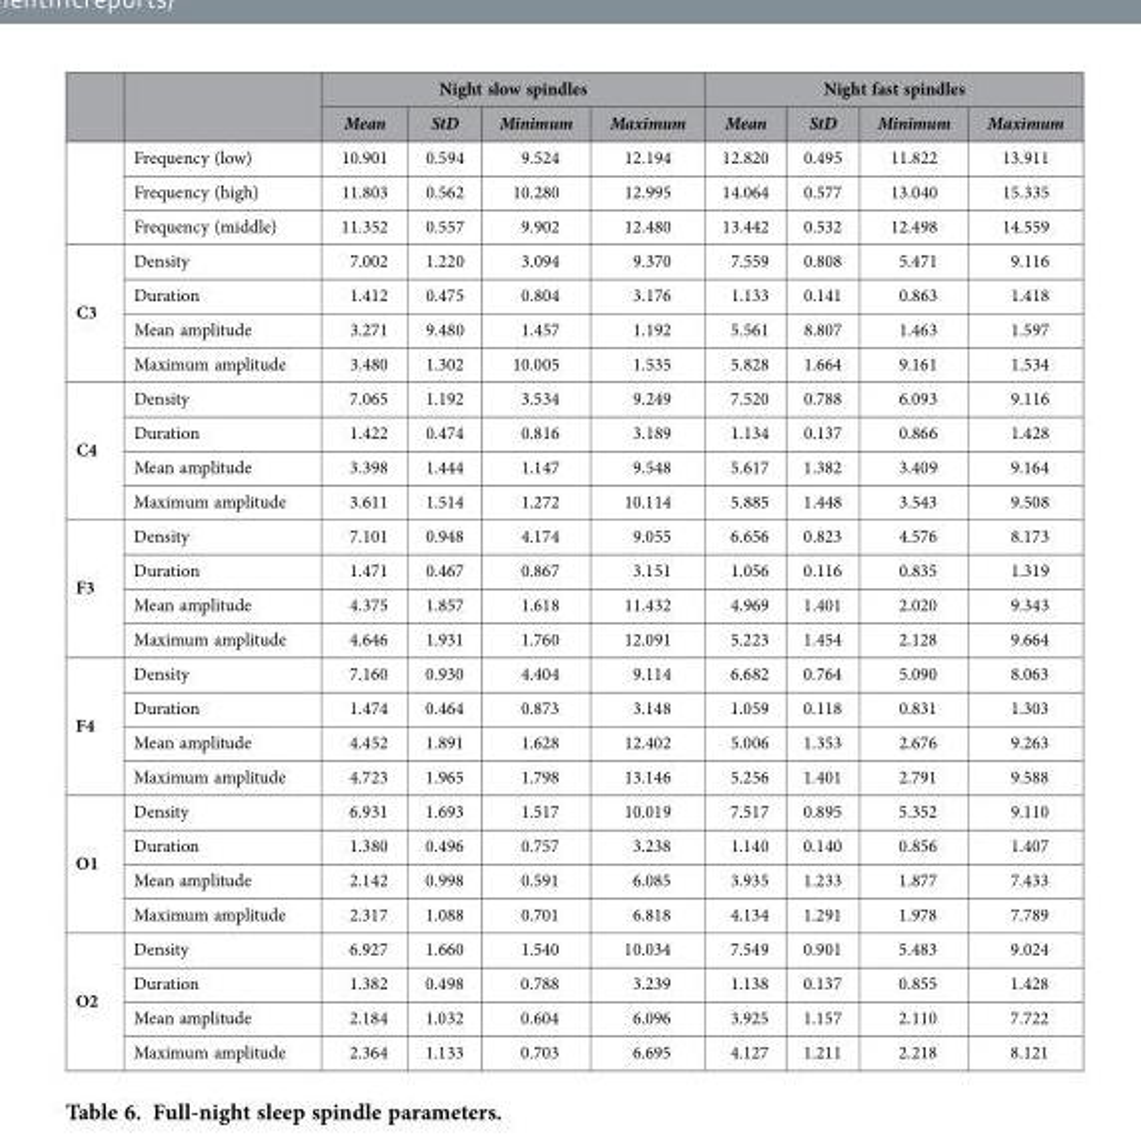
<table><thead><tr><td rowspan="2"></td><td rowspan="2"></td><td colspan="4">Night slow spindles</td><td colspan="4">Night fast spindles</td></tr><tr><td>Mean</td><td>StD</td><td>Minimum</td><td>Maximum</td><td>Mean</td><td>StD</td><td>Minimum</td><td>Maximum</td></tr></thead><tbody><tr><td rowspan="3"></td><td>Frequency (low)</td><td>10.901</td><td>0.594</td><td>9.524</td><td>12.194</td><td>12.820</td><td>0.495</td><td>11.822</td><td>13.911</td></tr><tr><td>Frequency (high)</td><td>11.803</td><td>0.562</td><td>10.280</td><td>12.995</td><td>14.064</td><td>0.577</td><td>13.040</td><td>15.335</td></tr><tr><td>Frequency (middle)</td><td>11.352</td><td>0.557</td><td>9.902</td><td>12.480</td><td>13.442</td><td>0.532</td><td>12.498</td><td>14.559</td></tr><tr><td rowspan="4">C3</td><td>Density</td><td>7.002</td><td>1.220</td><td>3.094</td><td>9.370</td><td>7.559</td><td>0.808</td><td>5.471</td><td>9.116</td></tr><tr><td>Duration</td><td>1.412</td><td>0.475</td><td>0.804</td><td>3.176</td><td>1.133</td><td>0.141</td><td>0.863</td><td>1.418</td></tr><tr><td>Mean amplitude</td><td>3.271</td><td>9.480</td><td>1.457</td><td>1.192</td><td>5.561</td><td>8.807</td><td>1.463</td><td>1.597</td></tr><tr><td>Maximum amplitude</td><td>3.480</td><td>1.302</td><td>10.005</td><td>1.535</td><td>5.828</td><td>1.664</td><td>9.161</td><td>1.534</td></tr><tr><td rowspan="4">C4</td><td>Density</td><td>7.065</td><td>1.192</td><td>3.534</td><td>9.249</td><td>7.520</td><td>0.788</td><td>6.093</td><td>9.116</td></tr><tr><td>Duration</td><td>1.422</td><td>0.474</td><td>0.816</td><td>3.189</td><td>1.134</td><td>0.137</td><td>0.866</td><td>1.428</td></tr><tr><td>Mean amplitude</td><td>3.398</td><td>1.444</td><td>1.147</td><td>9.548</td><td>5.617</td><td>1.382</td><td>3.409</td><td>9.164</td></tr><tr><td>Maximum amplitude</td><td>3.611</td><td>1.514</td><td>1.272</td><td>10.114</td><td>5.885</td><td>1.448</td><td>3.543</td><td>9.508</td></tr><tr><td rowspan="4">F3</td><td>Density</td><td>7.101</td><td>0.948</td><td>4.174</td><td>9.055</td><td>6.656</td><td>0.823</td><td>4.576</td><td>8.173</td></tr><tr><td>Duration</td><td>1.471</td><td>0.467</td><td>0.867</td><td>3.151</td><td>1.056</td><td>0.116</td><td>0.835</td><td>1.319</td></tr><tr><td>Mean amplitude</td><td>4.375</td><td>1.857</td><td>1.618</td><td>11.432</td><td>4.969</td><td>1.401</td><td>2.020</td><td>9.343</td></tr><tr><td>Maximum amplitude</td><td>4.646</td><td>1.931</td><td>1.760</td><td>12.091</td><td>5.223</td><td>1.454</td><td>2.128</td><td>9.664</td></tr><tr><td rowspan="4">F4</td><td>Density</td><td>7.160</td><td>0.930</td><td>4.404</td><td>9.114</td><td>6.682</td><td>0.764</td><td>5.090</td><td>8.063</td></tr><tr><td>Duration</td><td>1.474</td><td>0.464</td><td>0.873</td><td>3.148</td><td>1.059</td><td>0.118</td><td>0.831</td><td>1.303</td></tr><tr><td>Mean amplitude</td><td>4.452</td><td>1.891</td><td>1.628</td><td>12.402</td><td>5.006</td><td>1.353</td><td>2.676</td><td>9.263</td></tr><tr><td>Maximum amplitude</td><td>4.723</td><td>1.965</td><td>1.798</td><td>13.146</td><td>5.256</td><td>1.401</td><td>2.791</td><td>9.588</td></tr><tr><td rowspan="4">O1</td><td>Density</td><td>6.931</td><td>1.693</td><td>1.517</td><td>10.019</td><td>7.517</td><td>0.895</td><td>5.352</td><td>9.110</td></tr><tr><td>Duration</td><td>1.380</td><td>0.496</td><td>0.757</td><td>3.238</td><td>1.140</td><td>0.140</td><td>0.856</td><td>1.407</td></tr><tr><td>Mean amplitude</td><td>2.142</td><td>0.998</td><td>0.591</td><td>6.085</td><td>3.935</td><td>1.233</td><td>1.877</td><td>7.433</td></tr><tr><td>Maximum amplitude</td><td>2.317</td><td>1.088</td><td>0.701</td><td>6.818</td><td>4.134</td><td>1.291</td><td>1.978</td><td>7.789</td></tr><tr><td rowspan="4">O2</td><td>Density</td><td>6.927</td><td>1.660</td><td>1.540</td><td>10.034</td><td>7.549</td><td>0.901</td><td>5.483</td><td>9.024</td></tr><tr><td>Duration</td><td>1.382</td><td>0.498</td><td>0.788</td><td>3.239</td><td>1.138</td><td>0.137</td><td>0.855</td><td>1.428</td></tr><tr><td>Mean amplitude</td><td>2.184</td><td>1.032</td><td>0.604</td><td>6.096</td><td>3.925</td><td>1.157</td><td>2.110</td><td>7.722</td></tr><tr><td>Maximum amplitude</td><td>2.364</td><td>1.133</td><td>0.703</td><td>6.695</td><td>4.127</td><td>1.211</td><td>2.218</td><td>8.121</td></tr></tbody></table>